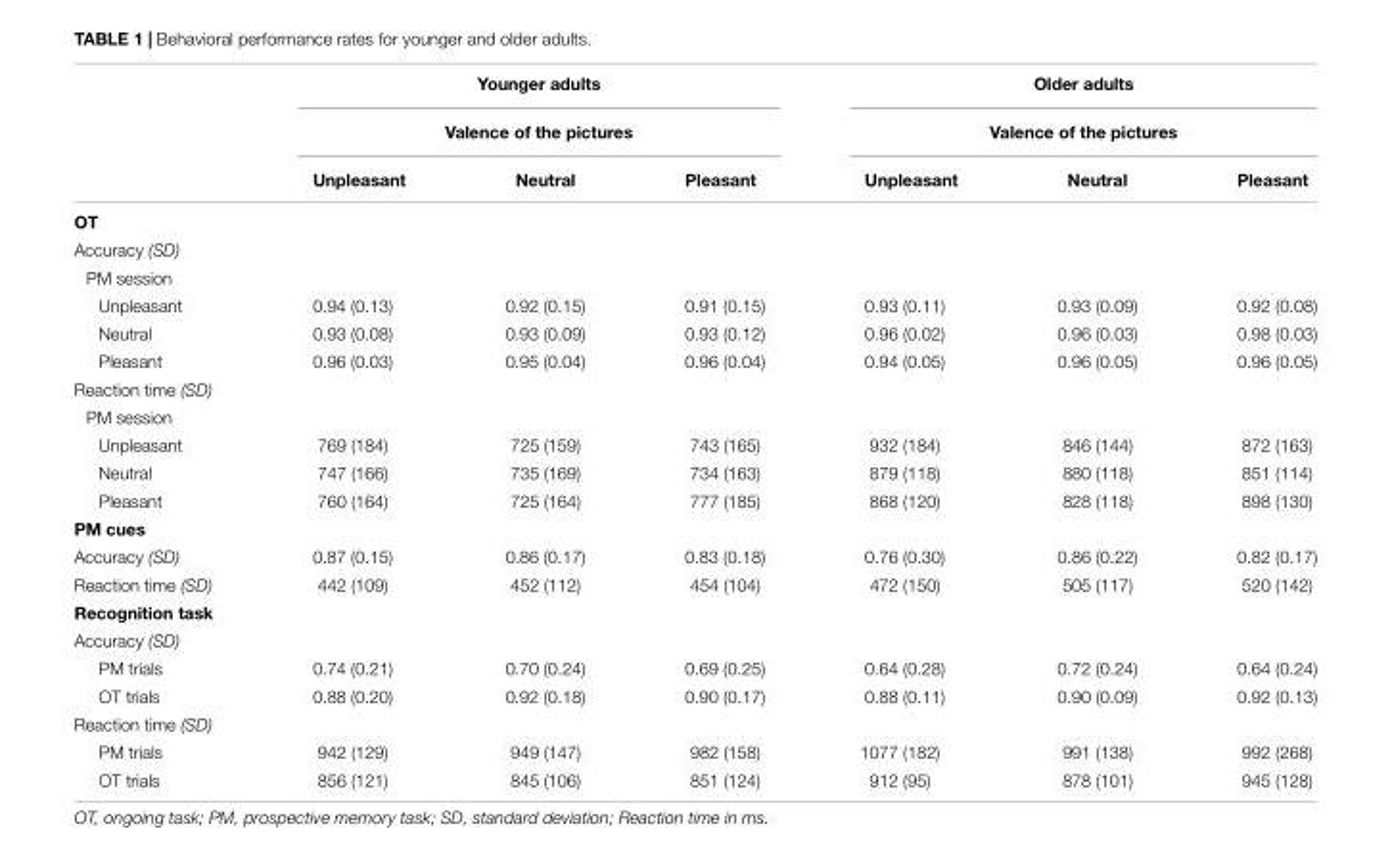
<table><thead><tr><td rowspan="3"></td><td rowspan="2" colspan="3">Younger adults Valence of the pictures</td><td rowspan="2" colspan="3">Older adults Valence of the pictures</td></tr><tr></tr><tr><td>Unpleasant</td><td>Neutral</td><td>Pleasant</td><td>Unpleasant</td><td>Neutral</td><td>Pleasant</td></tr></thead><tbody><tr><td colspan="7">OT</td></tr><tr><td colspan="7">Accuracy (SD)</td></tr><tr><td colspan="7">PM session</td></tr><tr><td>Unpleasant</td><td>0.94 (0.13)</td><td>0.92 (0.15)</td><td>0.91 (0.15)</td><td>0.93 (0.11)</td><td>0.93 (0.09)</td><td>0.92 (0.08)</td></tr><tr><td>Neutral</td><td>0.93 (0.08)</td><td>0.93 (0.09)</td><td>0.93 (0.12)</td><td>0.96 (0.02)</td><td>0.96 (0.03)</td><td>0.98 (0.03)</td></tr><tr><td>Pleasant</td><td>0.96 (0.03)</td><td>0.95 (0.04)</td><td>0.96 (0.04)</td><td>0.94 (0.05)</td><td>0.96 (0.05)</td><td>0.96 (0.05)</td></tr><tr><td colspan="7">Reaction time (SD)</td></tr><tr><td colspan="7">PM session</td></tr><tr><td>Unpleasant</td><td>769 (184)</td><td>725 (159)</td><td>743 (165)</td><td>932 (184)</td><td>846 (144)</td><td>872 (163)</td></tr><tr><td>Neutral</td><td>747 (166)</td><td>735 (169)</td><td>734 (163)</td><td>879 (118)</td><td>880 (118)</td><td>851 (114)</td></tr><tr><td>Pleasant</td><td>760 (164)</td><td>725 (164)</td><td>777 (185)</td><td>868 (120)</td><td>828 (118)</td><td>898 (130)</td></tr><tr><td colspan="7">PM cues</td></tr><tr><td>Accuracy (SD)</td><td>0.87 (0.15)</td><td>0.86 (0.17)</td><td>0.83 (0.18)</td><td>0.76 (0.30)</td><td>0.86 (0.22)</td><td>0.82 (0.17)</td></tr><tr><td>Reaction time (SD)</td><td>442 (109)</td><td>452 (112)</td><td>454 (104)</td><td>472 (150)</td><td>505 (117)</td><td>520 (142)</td></tr><tr><td colspan="7">Recognition task</td></tr><tr><td colspan="7">Accuracy (SD)</td></tr><tr><td>PM trials</td><td>0.74 (0.21)</td><td>0.70 (0.24)</td><td>0.69 (0.25)</td><td>0.64 (0.28)</td><td>0.72 (0.24)</td><td>0.64 (0.24)</td></tr><tr><td>OT trials</td><td>0.88 (0.20)</td><td>0.92 (0.18)</td><td>0.90 (0.17)</td><td>0.88 (0.11)</td><td>0.90 (0.09)</td><td>0.92 (0.13)</td></tr><tr><td colspan="7">Reaction time (SD)</td></tr><tr><td>PM trials</td><td>942 (129)</td><td>949 (147)</td><td>982 (158)</td><td>1077 (182)</td><td>991 (138)</td><td>992 (268)</td></tr><tr><td>OT trials</td><td>856 (121)</td><td>845 (106)</td><td>851 (124)</td><td>912 (95)</td><td>878 (101)</td><td>945 (128)</td></tr></tbody></table>